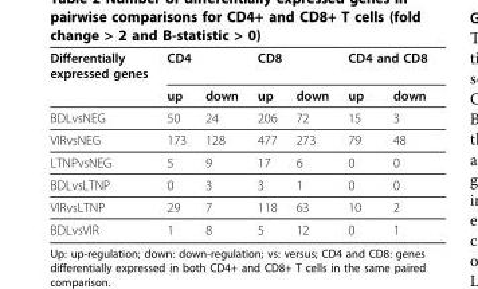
<table><thead><tr><td rowspan="2">Differentially expressed genes</td><td colspan="2">CD4</td><td colspan="2">CD8</td><td colspan="2">CD4 and CD8</td></tr><tr><td>up</td><td>down</td><td>up</td><td>down</td><td>up</td><td>down</td></tr></thead><tbody><tr><td>BDLvsNEG</td><td>50</td><td>24</td><td>206</td><td>72</td><td>15</td><td>3</td></tr><tr><td>VIRvsNEG</td><td>173</td><td>128</td><td>477</td><td>273</td><td>79</td><td>48</td></tr><tr><td>LTNPvsNEG</td><td>5</td><td>9</td><td>17</td><td>6</td><td>0</td><td>0</td></tr><tr><td>BDLvsLTNP</td><td>0</td><td>3</td><td>3</td><td>1</td><td>0</td><td>0</td></tr><tr><td>VIRvsLTNP</td><td>29</td><td>7</td><td>118</td><td>63</td><td>10</td><td>2</td></tr><tr><td>BDLvsVIR</td><td>1</td><td>8</td><td>5</td><td>12</td><td>0</td><td>1</td></tr></tbody></table>